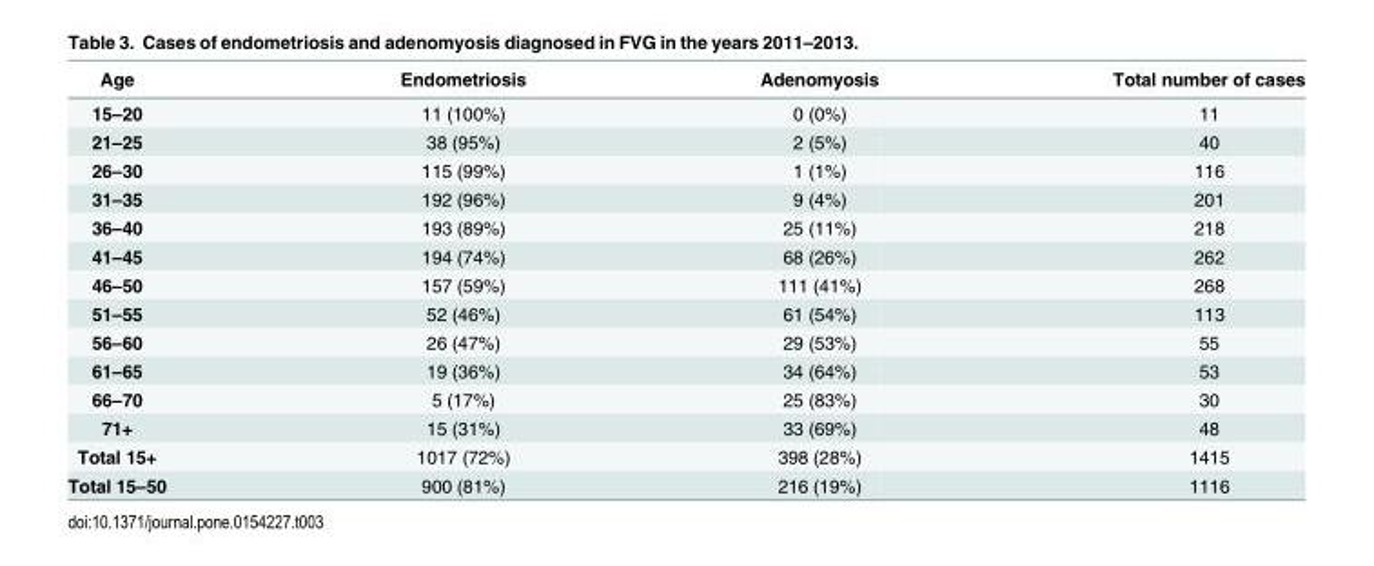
<table><thead><tr><td>Age</td><td>Endometriosis</td><td>Adenomyosis</td><td>Total number of cases</td></tr></thead><tbody><tr><td>15–20</td><td>11 (100%)</td><td>0 (0%)</td><td>11</td></tr><tr><td>21–25</td><td>38 (95%)</td><td>2 (5%)</td><td>40</td></tr><tr><td>26–30</td><td>115 (99%)</td><td>1 (1%)</td><td>116</td></tr><tr><td>31–35</td><td>192 (96%)</td><td>9 (4%)</td><td>201</td></tr><tr><td>36–40</td><td>193 (89%)</td><td>25 (11%)</td><td>218</td></tr><tr><td>41–45</td><td>194 (74%)</td><td>68 (26%)</td><td>262</td></tr><tr><td>46–50</td><td>157 (59%)</td><td>111 (41%)</td><td>268</td></tr><tr><td>51–55</td><td>52 (46%)</td><td>61 (54%)</td><td>113</td></tr><tr><td>56–60</td><td>26 (47%)</td><td>29 (53%)</td><td>55</td></tr><tr><td>61–65</td><td>19 (36%)</td><td>34 (64%)</td><td>53</td></tr><tr><td>66–70</td><td>5 (17%)</td><td>25 (83%)</td><td>30</td></tr><tr><td>71+</td><td>15 (31%)</td><td>33 (69%)</td><td>48</td></tr><tr><td>Total 15+</td><td>1017 (72%)</td><td>398 (28%)</td><td>1415</td></tr><tr><td>Total 15–50</td><td>900 (81%)</td><td>216 (19%)</td><td>1116</td></tr></tbody></table>